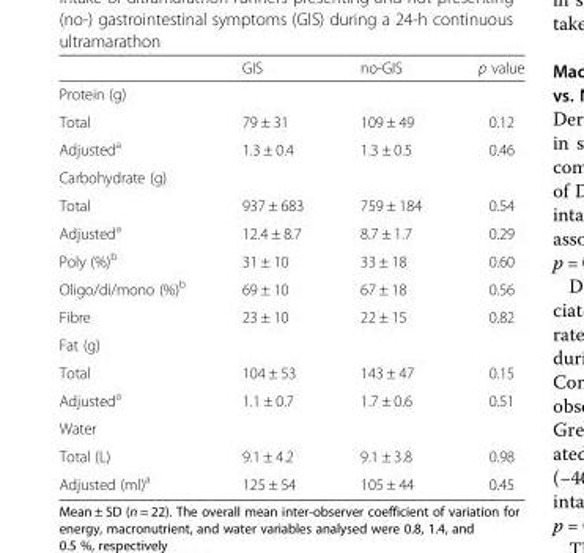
<table><thead><tr><td></td><td>GIS</td><td>no-GIS</td><td>p value</td></tr></thead><tbody><tr><td colspan="4">Protein (g)</td></tr><tr><td>Total</td><td>79 ± 31</td><td>109 ± 49</td><td>0.12</td></tr><tr><td>Adjusted<sup>a</sup></td><td>1.3 ± 0.4</td><td>1.3 ± 0.5</td><td>0.46</td></tr><tr><td colspan="4">Carbohydrate (g)</td></tr><tr><td>Total</td><td>937 ± 683</td><td>759 ± 184</td><td>0.54</td></tr><tr><td>Adjusted<sup>a</sup></td><td>12.4 ± 8.7</td><td>8.7 ± 1.7</td><td>0.29</td></tr><tr><td>Poly (%)<sup>b</sup></td><td>31 ± 10</td><td>33 ± 18</td><td>0.60</td></tr><tr><td>Oligo/di/mono (%)<sup>b</sup></td><td>69 ± 10</td><td>67 ± 18</td><td>0.56</td></tr><tr><td>Fibre</td><td>23 ± 10</td><td>22 ± 15</td><td>0.82</td></tr><tr><td colspan="4">Fat (g)</td></tr><tr><td>Total</td><td>104 ± 53</td><td>143 ± 47</td><td>0.15</td></tr><tr><td>Adjusted<sup>a</sup></td><td>1.1 ± 0.7</td><td>1.7 ± 0.6</td><td>0.51</td></tr><tr><td colspan="4">Water</td></tr><tr><td>Total (L)</td><td>9.1 ± 4.2</td><td>9.1 ± 3.8</td><td>0.98</td></tr><tr><td>Adjusted (ml)<sup>a</sup></td><td>125 ± 54</td><td>105 ± 44</td><td>0.45</td></tr></tbody></table>